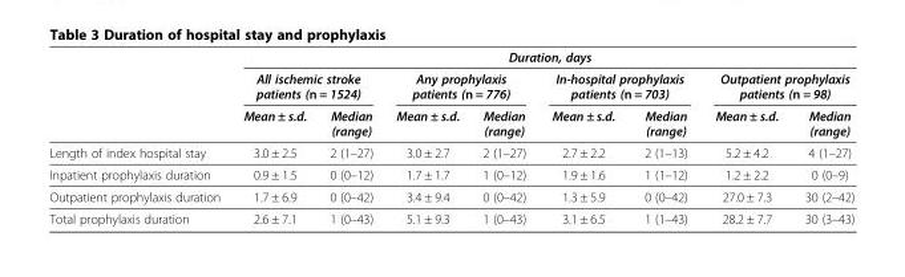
<table><thead><tr><td rowspan="3"></td><td colspan="8">Duration, days</td></tr><tr><td colspan="2">All ischemic stroke patients (n = 1524)</td><td colspan="2">Any prophylaxis patients (n = 776)</td><td colspan="2">In-hospital prophylaxis patients (n = 703)</td><td colspan="2">Outpatient prophylaxis patients (n = 98)</td></tr><tr><td>Mean ± s.d.</td><td>Median (range)</td><td>Mean ± s.d.</td><td>Median (range)</td><td>Mean ± s.d.</td><td>Median (range)</td><td>Mean ± s.d.</td><td>Median (range)</td></tr></thead><tbody><tr><td>Length of index hospital stay</td><td>3.0 ± 2.5</td><td>2 (1–27)</td><td>3.0 ± 2.7</td><td>2 (1–27)</td><td>2.7 ± 2.2</td><td>2 (1–13)</td><td>5.2 ± 4.2</td><td>4 (1–27)</td></tr><tr><td>Inpatient prophylaxis duration</td><td>0.9 ± 1.5</td><td>0 (0–12)</td><td>1.7 ± 1.7</td><td>1 (0–12)</td><td>1.9 ± 1.6</td><td>1 (1–12)</td><td>1.2 ± 2.2</td><td>0 (0–9)</td></tr><tr><td>Outpatient prophylaxis duration</td><td>1.7 ± 6.9</td><td>0 (0–42)</td><td>3.4 ± 9.4</td><td>0 (0–42)</td><td>1.3 ± 5.9</td><td>0 (0–42)</td><td>27.0 ± 7.3</td><td>30 (2–42)</td></tr><tr><td>Total prophylaxis duration</td><td>2.6 ± 7.1</td><td>1 (0–43)</td><td>5.1 ± 9.3</td><td>1 (0–43)</td><td>3.1 ± 6.5</td><td>1 (1–43)</td><td>28.2 ± 7.7</td><td>30 (3–43)</td></tr></tbody></table>